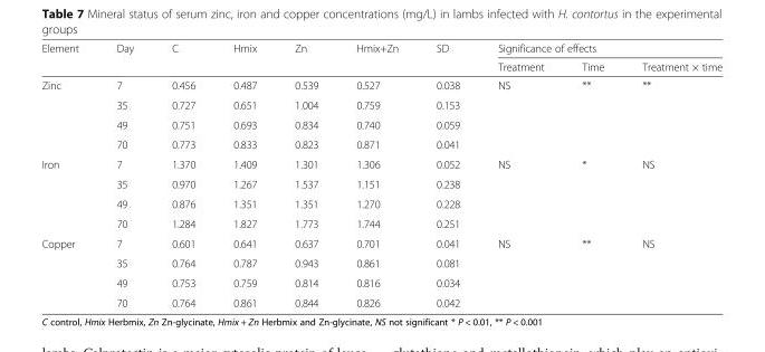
<table><thead><tr><td rowspan="2">Element</td><td rowspan="2">Day</td><td rowspan="2">C</td><td rowspan="2">Hmix</td><td rowspan="2">Zn</td><td rowspan="2">Hmix+Zn</td><td rowspan="2">SD</td><td colspan="3">Significance of effects</td></tr><tr><td>Treatment</td><td>Time</td><td>Treatment × time</td></tr></thead><tbody><tr><td rowspan="4">Zinc</td><td>7</td><td>0.456</td><td>0.487</td><td>0.539</td><td>0.527</td><td>0.038</td><td>NS</td><td>**</td><td>**</td></tr><tr><td>35</td><td>0.727</td><td>0.651</td><td>1.004</td><td>0.759</td><td>0.153</td><td></td><td></td><td></td></tr><tr><td>49</td><td>0.751</td><td>0.693</td><td>0.834</td><td>0.740</td><td>0.059</td><td></td><td></td><td></td></tr><tr><td>70</td><td>0.773</td><td>0.833</td><td>0.823</td><td>0.871</td><td>0.041</td><td></td><td></td><td></td></tr><tr><td rowspan="4">Iron</td><td>7</td><td>1.370</td><td>1.409</td><td>1.301</td><td>1.306</td><td>0.052</td><td>NS</td><td>*</td><td>NS</td></tr><tr><td>35</td><td>0.970</td><td>1.267</td><td>1.537</td><td>1.151</td><td>0.238</td><td></td><td></td><td></td></tr><tr><td>49</td><td>0.876</td><td>1.351</td><td>1.351</td><td>1.270</td><td>0.228</td><td></td><td></td><td></td></tr><tr><td>70</td><td>1.284</td><td>1.827</td><td>1.773</td><td>1.744</td><td>0.251</td><td></td><td></td><td></td></tr><tr><td rowspan="4">Copper</td><td>7</td><td>0.601</td><td>0.641</td><td>0.637</td><td>0.701</td><td>0.041</td><td>NS</td><td>**</td><td>NS</td></tr><tr><td>35</td><td>0.764</td><td>0.787</td><td>0.943</td><td>0.861</td><td>0.081</td><td></td><td></td><td></td></tr><tr><td>49</td><td>0.753</td><td>0.759</td><td>0.814</td><td>0.816</td><td>0.034</td><td></td><td></td><td></td></tr><tr><td>70</td><td>0.764</td><td>0.861</td><td>0.844</td><td>0.826</td><td>0.042</td><td></td><td></td><td></td></tr></tbody></table>